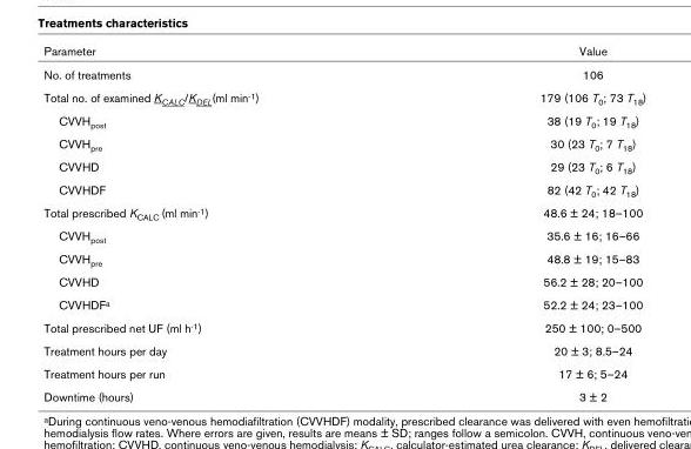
<table><thead><tr><td>Parameter</td><td>Value</td></tr></thead><tbody><tr><td>No. of treatments</td><td>106</td></tr><tr><td>Total no. of examined KCALC/KDEL(ml min-1)</td><td>179 (106 T0; 73 T18)</td></tr><tr><td>CVVHpost</td><td>38 (19 T0; 19 T18)</td></tr><tr><td>CVVHpre</td><td>30 (23 T0; 7 T18)</td></tr><tr><td>CVVHD</td><td>29 (23 T0; 6 T18)</td></tr><tr><td>CVVHDF</td><td>82 (42 T0; 42 T18)</td></tr><tr><td>Total prescribed KCALC (ml min-1)</td><td>48.6 ± 24; 18–100</td></tr><tr><td>CVVHpost</td><td>35.6 ± 16; 16–66</td></tr><tr><td>CVVHpre</td><td>48.8 ± 19; 15–83</td></tr><tr><td>CVVHD</td><td>56.2 ± 28; 20–100</td></tr><tr><td>CVVHDFa</td><td>52.2 ± 24; 23–100</td></tr><tr><td>Total prescribed net UF (ml h-1)</td><td>250 ± 100; 0–500</td></tr><tr><td>Treatment hours per day</td><td>20 ± 3; 8.5–24</td></tr><tr><td>Treatment hours per run</td><td>17 ± 6; 5–24</td></tr><tr><td>Downtime (hours)</td><td>3 ± 2</td></tr></tbody></table>